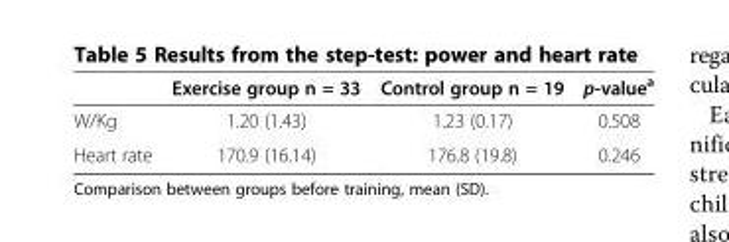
<table><thead><tr><td></td><td>Exercise group n = 33</td><td>Control group n = 19</td><td>p-value<sup>a</sup></td></tr></thead><tbody><tr><td>W/Kg</td><td>1.20 (1.43)</td><td>1.23 (0.17)</td><td>0.508</td></tr><tr><td>Heart rate</td><td>170.9 (16.14)</td><td>176.8 (19.8)</td><td>0.246</td></tr></tbody></table>